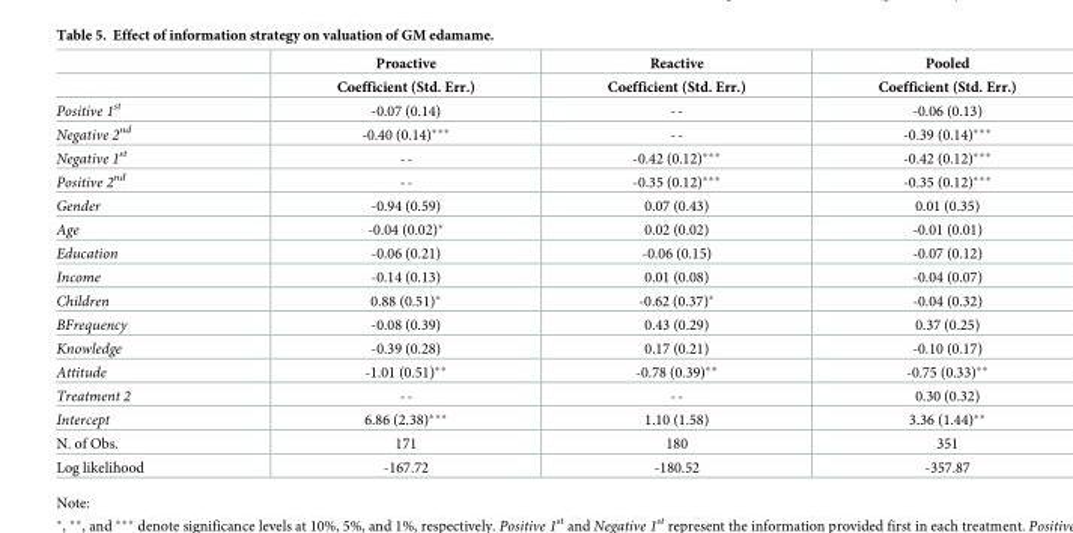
<table><thead><tr><td rowspan="2"></td><td rowspan="2">Proactive Coefficient (Std. Err.)</td><td rowspan="2">Reactive Coefficient (Std. Err.)</td><td rowspan="2">Pooled Coefficient (Std. Err.)</td></tr><tr></tr></thead><tbody><tr><td>Positive 1<sup>st</sup></td><td>-0.07 (0.14)</td><td>--</td><td>-0.06 (0.13)</td></tr><tr><td>Negative 2<sup>nd</sup></td><td>-0.40 (0.14)***</td><td>--</td><td>-0.39 (0.14)***</td></tr><tr><td>Negative 1<sup>st</sup></td><td>--</td><td>-0.42 (0.12)***</td><td>-0.42 (0.12)***</td></tr><tr><td>Positive 2<sup>nd</sup></td><td>--</td><td>-0.35 (0.12)***</td><td>-0.35 (0.12)***</td></tr><tr><td>Gender</td><td>-0.94 (0.59)</td><td>0.07 (0.43)</td><td>0.01 (0.35)</td></tr><tr><td>Age</td><td>-0.04 (0.02)*</td><td>0.02 (0.02)</td><td>-0.01 (0.01)</td></tr><tr><td>Education</td><td>-0.06 (0.21)</td><td>-0.06 (0.15)</td><td>-0.07 (0.12)</td></tr><tr><td>Income</td><td>-0.14 (0.13)</td><td>0.01 (0.08)</td><td>-0.04 (0.07)</td></tr><tr><td>Children</td><td>0.88 (0.51)*</td><td>-0.62 (0.37)*</td><td>-0.04 (0.32)</td></tr><tr><td>BFrequency</td><td>-0.08 (0.39)</td><td>0.43 (0.29)</td><td>0.37 (0.25)</td></tr><tr><td>Knowledge</td><td>-0.39 (0.28)</td><td>0.17 (0.21)</td><td>-0.10 (0.17)</td></tr><tr><td>Attitude</td><td>-1.01 (0.51)**</td><td>-0.78 (0.39)**</td><td>-0.75 (0.33)**</td></tr><tr><td>Treatment 2</td><td>--</td><td>--</td><td>0.30 (0.32)</td></tr><tr><td>Intercept</td><td>6.86 (2.38)***</td><td>1.10 (1.58)</td><td>3.36 (1.44)**</td></tr><tr><td>N. of Obs.</td><td>171</td><td>180</td><td>351</td></tr><tr><td>Log likelihood</td><td>-167.72</td><td>-180.52</td><td>-357.87</td></tr></tbody></table>